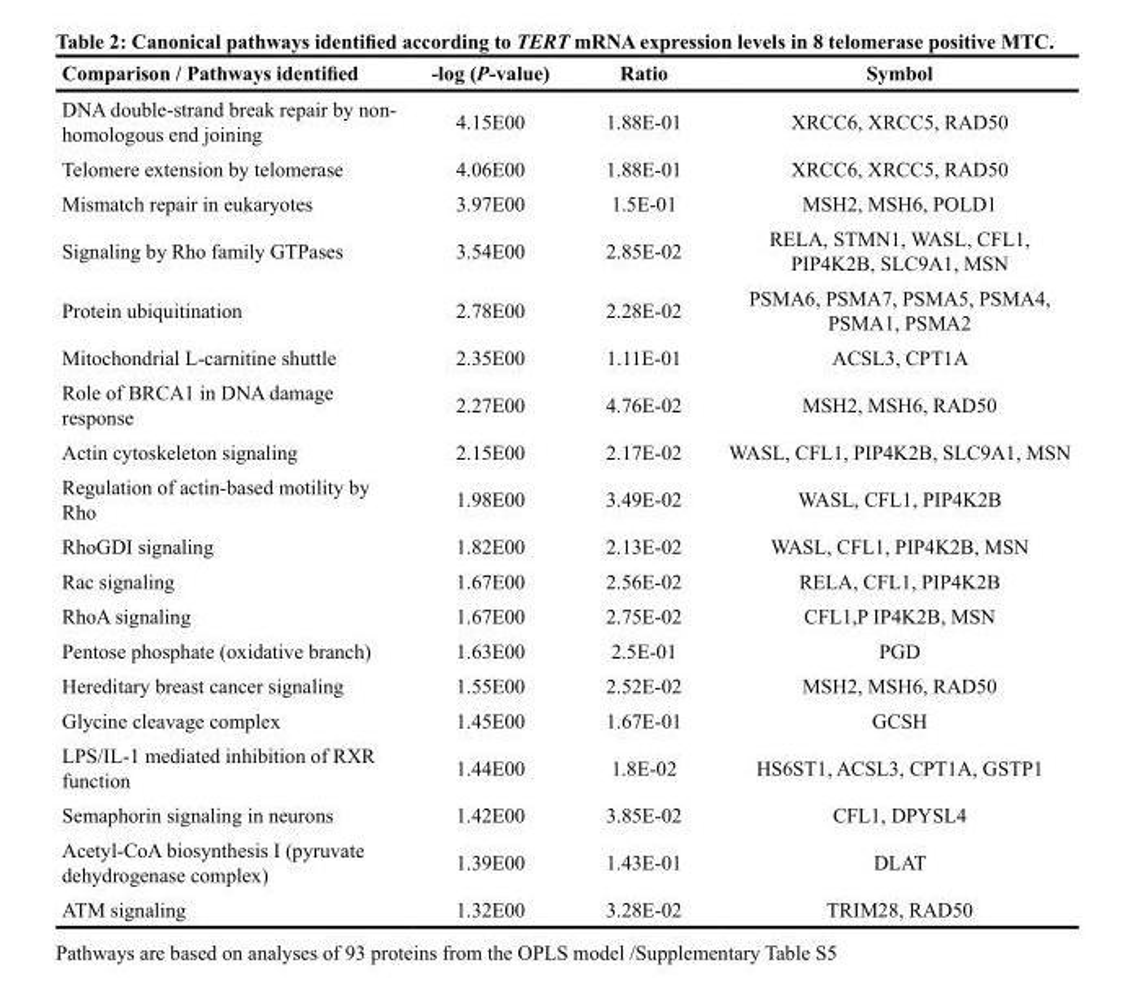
<table><thead><tr><td>Comparison / Pathways identified</td><td>-log (P-value)</td><td>Ratio</td><td>Symbol</td></tr></thead><tbody><tr><td>DNA double-strand break repair by non- homologous end joining</td><td>4.15E00</td><td>1.88E-01</td><td>XRCC6, XRCC5, RAD50</td></tr><tr><td>Telomere extension by telomerase</td><td>4.06E00</td><td>1.88E-01</td><td>XRCC6, XRCC5, RAD50</td></tr><tr><td>Mismatch repair in eukaryotes</td><td>3.97E00</td><td>1.5E-01</td><td>MSH2, MSH6, POLD1</td></tr><tr><td>Signaling by Rho family GTPases</td><td>3.54E00</td><td>2.85E-02</td><td>RELA, STMN1, WASL, CFL1, PIP4K2B, SLC9A1, MSN</td></tr><tr><td>Protein ubiquitination</td><td>2.78E00</td><td>2.28E-02</td><td>PSMA6, PSMA7, PSMA5, PSMA4, PSMA1, PSMA2</td></tr><tr><td>Mitochondrial L-carnitine shuttle</td><td>2.35E00</td><td>1.11E-01</td><td>ACSL3, CPT1A</td></tr><tr><td>Role of BRCA1 in DNA damage response</td><td>2.27E00</td><td>4.76E-02</td><td>MSH2, MSH6, RAD50</td></tr><tr><td>Actin cytoskeleton signaling</td><td>2.15E00</td><td>2.17E-02</td><td>WASL, CFL1, PIP4K2B, SLC9A1, MSN</td></tr><tr><td>Regulation of actin-based motility by Rho</td><td>1.98E00</td><td>3.49E-02</td><td>WASL, CFL1, PIP4K2B</td></tr><tr><td>RhoGDI signaling</td><td>1.82E00</td><td>2.13E-02</td><td>WASL, CFL1, PIP4K2B, MSN</td></tr><tr><td>Rac signaling</td><td>1.67E00</td><td>2.56E-02</td><td>RELA, CFL1, PIP4K2B</td></tr><tr><td>RhoA signaling</td><td>1.67E00</td><td>2.75E-02</td><td>CFL1,P IP4K2B, MSN</td></tr><tr><td>Pentose phosphate (oxidative branch)</td><td>1.63E00</td><td>2.5E-01</td><td>PGD</td></tr><tr><td>Hereditary breast cancer signaling</td><td>1.55E00</td><td>2.52E-02</td><td>MSH2, MSH6, RAD50</td></tr><tr><td>Glycine cleavage complex</td><td>1.45E00</td><td>1.67E-01</td><td>GCSH</td></tr><tr><td>LPS/IL-1 mediated inhibition of RXR function</td><td>1.44E00</td><td>1.8E-02</td><td>HS6ST1, ACSL3, CPT1A, GSTP1</td></tr><tr><td>Semaphorin signaling in neurons</td><td>1.42E00</td><td>3.85E-02</td><td>CFL1, DPYSL4</td></tr><tr><td>Acetyl-CoA biosynthesis I (pyruvate dehydrogenase complex)</td><td>1.39E00</td><td>1.43E-01</td><td>DLAT</td></tr><tr><td>ATM signaling</td><td>1.32E00</td><td>3.28E-02</td><td>TRIM28, RAD50</td></tr></tbody></table>